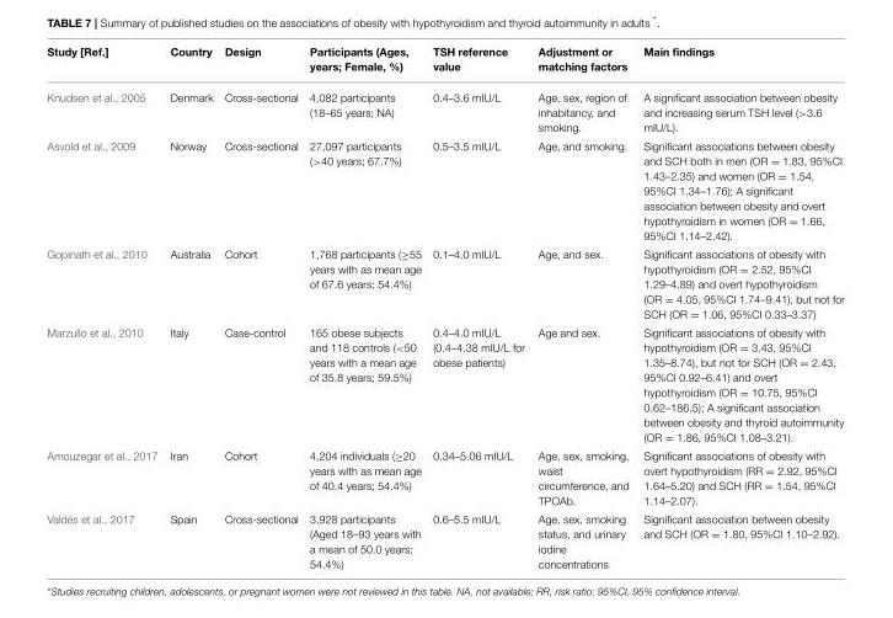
<table><thead><tr><td>Study [Ref.]</td><td>Country</td><td>Design</td><td>Participants (Ages, years; Female, %)</td><td>TSH reference value</td><td>Adjustment or matching factors</td><td>Main findings</td></tr></thead><tbody><tr><td>Knudsen et al., 2005</td><td>Denmark</td><td>Cross-sectional</td><td>4,082 participants (18–65 years; NA)</td><td>0.4–3.6 mIU/L</td><td>Age, sex, region of inhabitancy, and smoking.</td><td>A significant association between obesity and increasing serum TSH level (&gt;3.6 mIU/L).</td></tr><tr><td>Asvold et al., 2009</td><td>Norway</td><td>Cross-sectional</td><td>27,097 participants (&gt;40 years; 67.7%)</td><td>0.5–3.5 mIU/L</td><td>Age, and smoking.</td><td>Significant associations between obesity and SCH both in men (OR = 1.83, 95%CI 1.43–2.35) and women (OR = 1.54, 95%CI 1.34–1.76); A significant association between obesity and overt hypothyroidism in women (OR = 1.66, 95%CI 1.14–2.42).</td></tr><tr><td>Gopinath et al., 2010</td><td>Australia</td><td>Cohort</td><td>1,768 participants (≥55 years with as mean age of 67.6 years; 54.4%)</td><td>0.1–4.0 mIU/L</td><td>Age, and sex.</td><td>Significant associations of obesity with hypothyroidism (OR = 2.52, 95%CI 1.29–4.89) and overt hypothyroidism (OR = 4.05, 95%CI 1.74–9.41), but not for SCH (OR = 1.06, 95%CI 0.33–3.37)</td></tr><tr><td>Marzullo et al., 2010</td><td>Italy</td><td>Case-control</td><td>165 obese subjects and 118 controls (&lt;50 years with a mean age of 35.8 years; 59.5%)</td><td>0.4–4.0 mIU/L (0.4–4.38 mIU/L for obese patients)</td><td>Age and sex.</td><td>Significant associations of obesity with hypothyroidism (OR = 3.43, 95%CI 1.35–8.74), but not for SCH (OR = 2.43, 95%CI 0.92–6.41) and overt hypothyroidism (OR = 10.75, 95%CI 0.62–186.5); A significant association between obesity and thyroid autoimmunity (OR = 1.86, 95%CI 1.08–3.21).</td></tr><tr><td>Amouzegar et al., 2017</td><td>Iran</td><td>Cohort</td><td>4,204 individuals (≥20 years with as mean age of 40.4 years; 54.4%)</td><td>0.34–5.06 mIU/L</td><td>Age, sex, smoking, waist circumference, and TPOAb.</td><td>Significant associations of obesity with overt hypothyroidism (RR = 2.92, 95%CI 1.64–5.20) and SCH (RR = 1.54, 95%CI 1.14–2.07).</td></tr><tr><td>Valdés et al., 2017</td><td>Spain</td><td>Cross-sectional</td><td>3,928 participants (Aged 18–93 years with a mean of 50.0 years; 54.4%)</td><td>0.6–5.5 mIU/L</td><td>Age, sex, smoking status, and urinary iodine concentrations</td><td>Significant association between obesity and SCH (OR = 1.80, 95%CI 1.10–2.92).</td></tr></tbody></table>